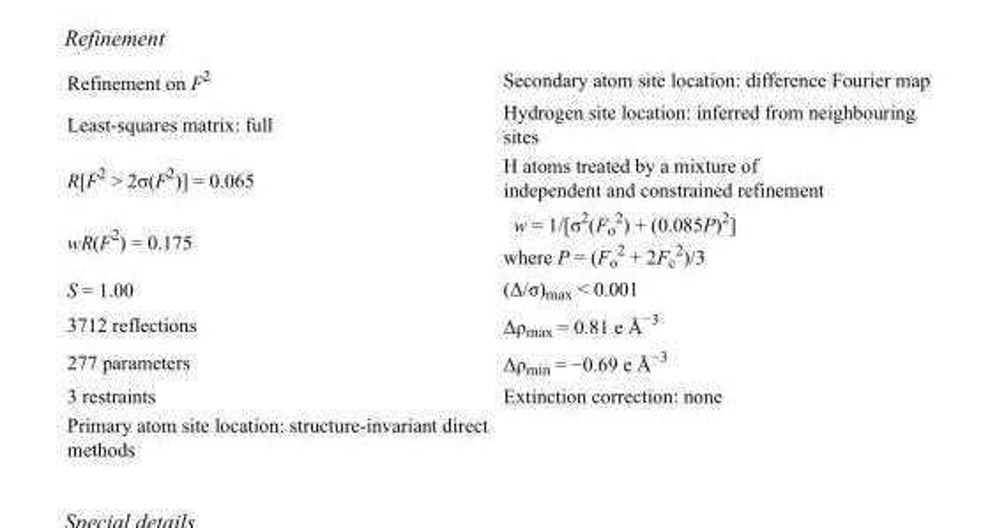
<table><tbody><tr><td>Refinement on F<sup>2</sup></td><td>Secondary atom site location: difference Fourier map</td></tr><tr><td>Least-squares matrix: full</td><td>Hydrogen site location: inferred from neighbouring sites</td></tr><tr><td>R[F<sup>2</sup> &gt; 2σ(F<sup>2</sup>)] = 0.065</td><td>H atoms treated by a mixture of independent and constrained refinement</td></tr><tr><td>wR(F<sup>2</sup>) = 0.175</td><td>w = 1/[σ<sup>2</sup>(F<sub>o</sub> <sup>2</sup>) + (0.085P)<sup>2</sup>] where P = (F<sub>o</sub> <sup>2</sup> + 2F<sub>c</sub> <sup>2</sup>)/3</td></tr><tr><td>S = 1.00</td><td>(Δ/σ)<sub>max</sub> &lt; 0.001</td></tr><tr><td>3712 reflections</td><td>Δρ<sub>max</sub> = 0.81 e Å<sup>−3</sup></td></tr><tr><td>277 parameters</td><td>Δρ<sub>min</sub> = −0.69 e Å<sup>−3</sup></td></tr><tr><td>3 restraints</td><td>Extinction correction: none</td></tr><tr><td>Primary atom site location: structure-invariant direct methods</td><td></td></tr></tbody></table>